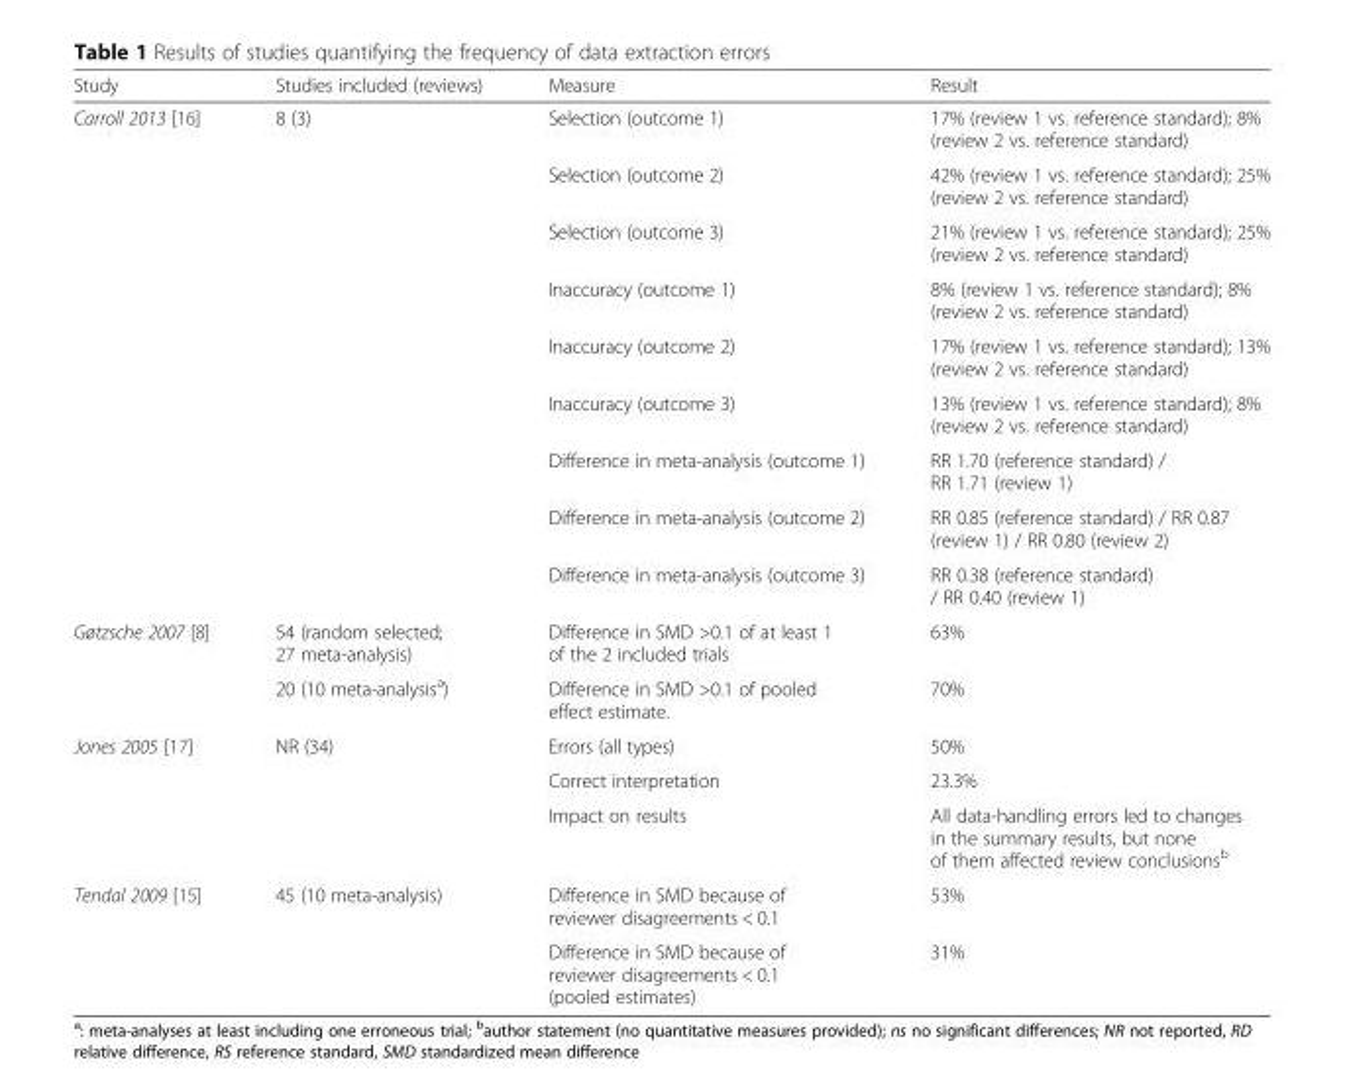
<table><thead><tr><td>Study</td><td>Studies included (reviews)</td><td>Measure</td><td>Result</td></tr></thead><tbody><tr><td rowspan="9">Carroll 2013 [16]</td><td rowspan="9">8 (3)</td><td>Selection (outcome 1)</td><td>17% (review 1 vs. reference standard); 8% (review 2 vs. reference standard)</td></tr><tr><td>Selection (outcome 2)</td><td>42% (review 1 vs. reference standard); 25% (review 2 vs. reference standard)</td></tr><tr><td>Selection (outcome 3)</td><td>21% (review 1 vs. reference standard); 25% (review 2 vs. reference standard)</td></tr><tr><td>Inaccuracy (outcome 1)</td><td>8% (review 1 vs. reference standard); 8% (review 2 vs. reference standard)</td></tr><tr><td>Inaccuracy (outcome 2)</td><td>17% (review 1 vs. reference standard); 13% (review 2 vs. reference standard)</td></tr><tr><td>Inaccuracy (outcome 3)</td><td>13% (review 1 vs. reference standard); 8% (review 2 vs. reference standard)</td></tr><tr><td>Difference in meta-analysis (outcome 1)</td><td>RR 1.70 (reference standard) / RR 1.71 (review 1)</td></tr><tr><td>Difference in meta-analysis (outcome 2)</td><td>RR 0.85 (reference standard) / RR 0.87 (review 1) / RR 0.80 (review 2)</td></tr><tr><td>Difference in meta-analysis (outcome 3)</td><td>RR 0.38 (reference standard) / RR 0.40 (review 1)</td></tr><tr><td rowspan="2">Gøtzsche 2007 [8]</td><td>54 (random selected; 27 meta-analysis)</td><td>Difference in SMD &gt;0.1 of at least 1 of the 2 included trials</td><td>63%</td></tr><tr><td>20 (10 meta-analysis<sup>a</sup>)</td><td>Difference in SMD &gt;0.1 of pooled effect estimate.</td><td>70%</td></tr><tr><td rowspan="3">Jones 2005 [17]</td><td rowspan="3">NR (34)</td><td>Errors (all types)</td><td>50%</td></tr><tr><td>Correct interpretation</td><td>23.3%</td></tr><tr><td>Impact on results</td><td>All data-handling errors led to changes in the summary results, but none of them affected review conclusions<sup>b</sup></td></tr><tr><td rowspan="2">Tendal 2009 [15]</td><td>45 (10 meta-analysis)</td><td>Difference in SMD because of reviewer disagreements &lt; 0.1</td><td>53%</td></tr><tr><td></td><td>Difference in SMD because of reviewer disagreements &lt; 0.1 (pooled estimates)</td><td>31%</td></tr></tbody></table>